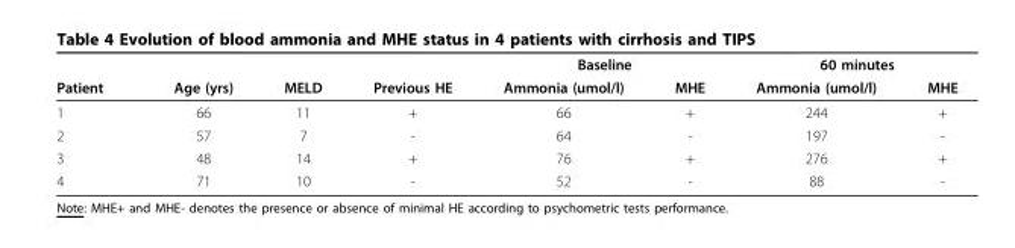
<table><thead><tr><td rowspan="2">Patient</td><td rowspan="2">Age (yrs)</td><td rowspan="2">MELD</td><td rowspan="2">Previous HE</td><td colspan="2">Baseline</td><td colspan="2">60 minutes</td></tr><tr><td>Ammonia (umol/l)</td><td>MHE</td><td>Ammonia (umol/l)</td><td>MHE</td></tr></thead><tbody><tr><td>1</td><td>66</td><td>11</td><td>+</td><td>66</td><td>+</td><td>244</td><td>+</td></tr><tr><td>2</td><td>57</td><td>7</td><td>-</td><td>64</td><td>-</td><td>197</td><td>-</td></tr><tr><td>3</td><td>48</td><td>14</td><td>+</td><td>76</td><td>+</td><td>276</td><td>+</td></tr><tr><td>4</td><td>71</td><td>10</td><td>-</td><td>52</td><td>-</td><td>88</td><td>-</td></tr></tbody></table>